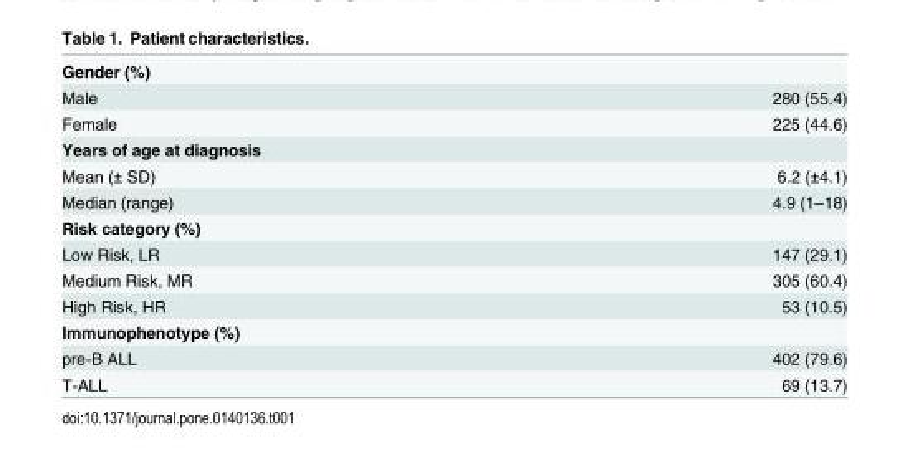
<table><tbody><tr><td colspan="2">Gender (%)</td></tr><tr><td>Male</td><td>280 (55.4)</td></tr><tr><td>Female</td><td>225 (44.6)</td></tr><tr><td colspan="2">Years of age at diagnosis</td></tr><tr><td>Mean (± SD)</td><td>6.2 (±4.1)</td></tr><tr><td>Median (range)</td><td>4.9 (1–18)</td></tr><tr><td colspan="2">Risk category (%)</td></tr><tr><td>Low Risk, LR</td><td>147 (29.1)</td></tr><tr><td>Medium Risk, MR</td><td>305 (60.4)</td></tr><tr><td>High Risk, HR</td><td>53 (10.5)</td></tr><tr><td colspan="2">Immunophenotype (%)</td></tr><tr><td>pre-B ALL</td><td>402 (79.6)</td></tr><tr><td>T-ALL</td><td>69 (13.7)</td></tr></tbody></table>